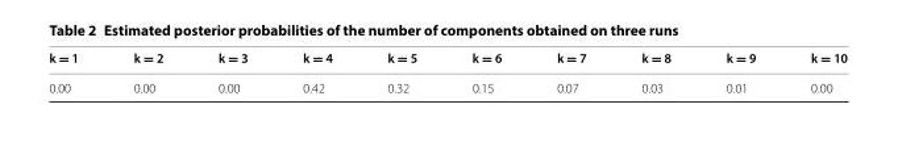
<table><thead><tr><td>k = 1</td><td>k = 2</td><td>k = 3</td><td>k = 4</td><td>k = 5</td><td>k = 6</td><td>k = 7</td><td>k = 8</td><td>k = 9</td><td>k = 10</td></tr></thead><tbody><tr><td>0.00</td><td>0.00</td><td>0.00</td><td>0.42</td><td>0.32</td><td>0.15</td><td>0.07</td><td>0.03</td><td>0.01</td><td>0.00</td></tr></tbody></table>